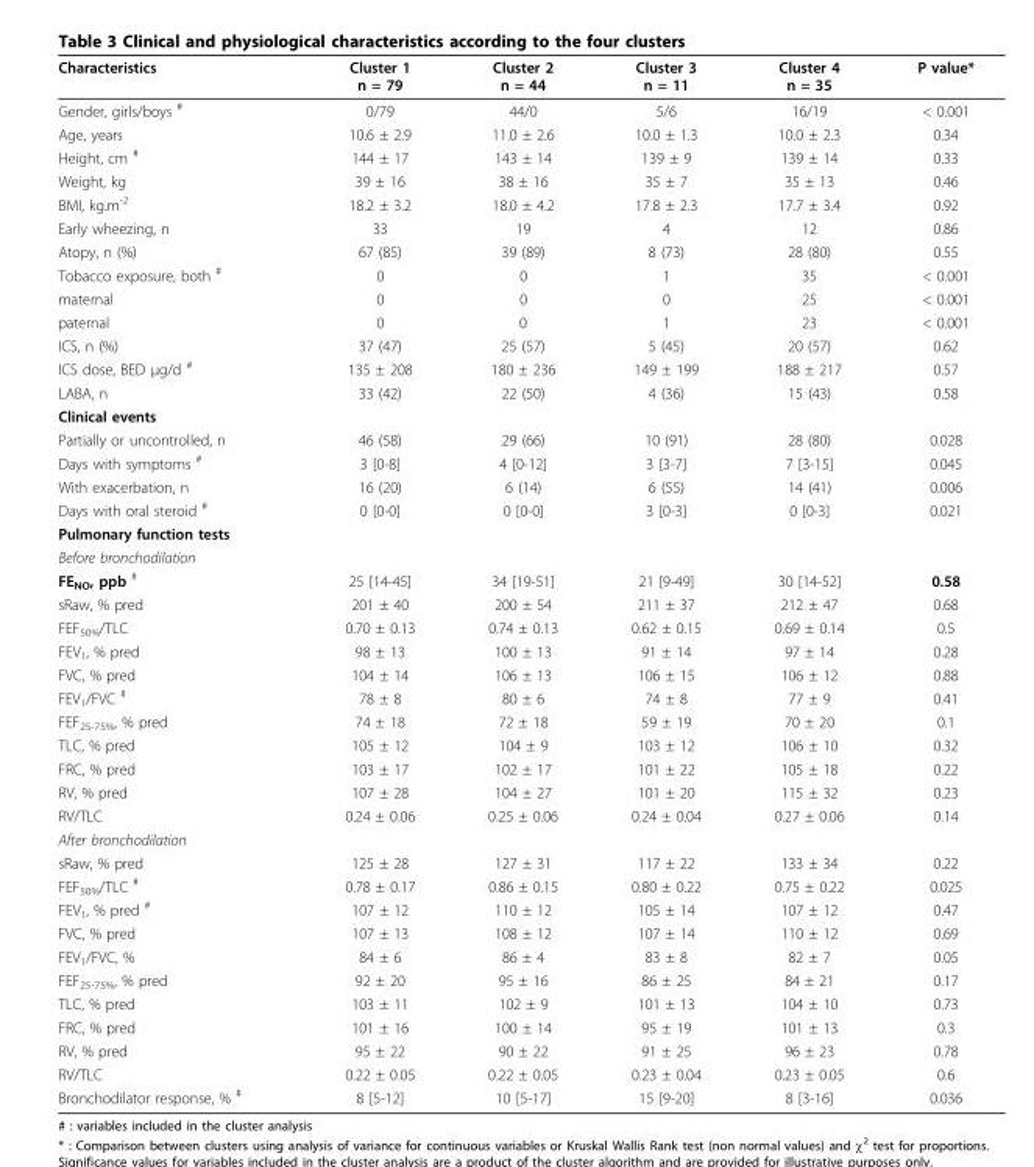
<table><thead><tr><td>Characteristics</td><td>Cluster 1 n = 79</td><td>Cluster 2 n = 44</td><td>Cluster 3 n = 11</td><td>Cluster 4 n = 35</td><td>P value*</td></tr></thead><tbody><tr><td>Gender, girls/boys <sup>#</sup></td><td>0/79</td><td>44/0</td><td>5/6</td><td>16/19</td><td>&lt; 0.001</td></tr><tr><td>Age, years</td><td>10.6 ± 2.9</td><td>11.0 ± 2.6</td><td>10.0 ± 1.3</td><td>10.0 ± 2.3</td><td>0.34</td></tr><tr><td>Height, cm <sup>#</sup></td><td>144 ± 17</td><td>143 ± 14</td><td>139 ± 9</td><td>139 ± 14</td><td>0.33</td></tr><tr><td>Weight, kg</td><td>39 ± 16</td><td>38 ± 16</td><td>35 ± 7</td><td>35 ± 13</td><td>0.46</td></tr><tr><td>BMI, kg.m<sup>-2</sup></td><td>18.2 ± 3.2</td><td>18.0 ± 4.2</td><td>17.8 ± 2.3</td><td>17.7 ± 3.4</td><td>0.92</td></tr><tr><td>Early wheezing, n</td><td>33</td><td>19</td><td>4</td><td>12</td><td>0.86</td></tr><tr><td>Atopy, n (%)</td><td>67 (85)</td><td>39 (89)</td><td>8 (73)</td><td>28 (80)</td><td>0.55</td></tr><tr><td>Tobacco exposure, both <sup>#</sup></td><td>0</td><td>0</td><td>1</td><td>35</td><td>&lt; 0.001</td></tr><tr><td>maternal</td><td>0</td><td>0</td><td>0</td><td>25</td><td>&lt; 0.001</td></tr><tr><td>paternal</td><td>0</td><td>0</td><td>1</td><td>23</td><td>&lt; 0.001</td></tr><tr><td>ICS, n (%)</td><td>37 (47)</td><td>25 (57)</td><td>5 (45)</td><td>20 (57)</td><td>0.62</td></tr><tr><td>ICS dose, BED μg/d <sup>#</sup></td><td>135 ± 208</td><td>180 ± 236</td><td>149 ± 199</td><td>188 ± 217</td><td>0.57</td></tr><tr><td>LABA, n</td><td>33 (42)</td><td>22 (50)</td><td>4 (36)</td><td>15 (43)</td><td>0.58</td></tr><tr><td colspan="6">Clinical events</td></tr><tr><td>Partially or uncontrolled, n</td><td>46 (58)</td><td>29 (66)</td><td>10 (91)</td><td>28 (80)</td><td>0.028</td></tr><tr><td>Days with symptoms <sup>#</sup></td><td>3 [0-8]</td><td>4 [0-12]</td><td>3 [3-7]</td><td>7 [3-15]</td><td>0.045</td></tr><tr><td>With exacerbation, n</td><td>16 (20)</td><td>6 (14)</td><td>6 (55)</td><td>14 (41)</td><td>0.006</td></tr><tr><td>Days with oral steroid <sup>#</sup></td><td>0 [0-0]</td><td>0 [0-0]</td><td>3 [0-3]</td><td>0 [0-3]</td><td>0.021</td></tr><tr><td colspan="6">Pulmonary function tests</td></tr><tr><td colspan="6">Before bronchodilation</td></tr><tr><td>FE<sub>NO</sub>, ppb <sup>#</sup></td><td>25 [14-45]</td><td>34 [19-51]</td><td>21 [9-49]</td><td>30 [14-52]</td><td>0.58</td></tr><tr><td>sRaw, % pred</td><td>201 ± 40</td><td>200 ± 54</td><td>211 ± 37</td><td>212 ± 47</td><td>0.68</td></tr><tr><td>FEF<sub>50%</sub>/TLC</td><td>0.70 ± 0.13</td><td>0.74 ± 0.13</td><td>0.62 ± 0.15</td><td>0.69 ± 0.14</td><td>0.5</td></tr><tr><td>FEV<sub>1</sub>, % pred</td><td>98 ± 13</td><td>100 ± 13</td><td>91 ± 14</td><td>97 ± 14</td><td>0.28</td></tr><tr><td>FVC, % pred</td><td>104 ± 14</td><td>106 ± 13</td><td>106 ± 15</td><td>106 ± 12</td><td>0.88</td></tr><tr><td>FEV<sub>1</sub>/FVC <sup>#</sup></td><td>78 ± 8</td><td>80 ± 6</td><td>74 ± 8</td><td>77 ± 9</td><td>0.41</td></tr><tr><td>FEF<sub>25-75%</sub>, % pred</td><td>74 ± 18</td><td>72 ± 18</td><td>59 ± 19</td><td>70 ± 20</td><td>0.1</td></tr><tr><td>TLC, % pred</td><td>105 ± 12</td><td>104 ± 9</td><td>103 ± 12</td><td>106 ± 10</td><td>0.32</td></tr><tr><td>FRC, % pred</td><td>103 ± 17</td><td>102 ± 17</td><td>101 ± 22</td><td>105 ± 18</td><td>0.22</td></tr><tr><td>RV, % pred</td><td>107 ± 28</td><td>104 ± 27</td><td>101 ± 20</td><td>115 ± 32</td><td>0.23</td></tr><tr><td>RV/TLC</td><td>0.24 ± 0.06</td><td>0.25 ± 0.06</td><td>0.24 ± 0.04</td><td>0.27 ± 0.06</td><td>0.14</td></tr><tr><td colspan="6">After bronchodilation</td></tr><tr><td>sRaw, % pred</td><td>125 ± 28</td><td>127 ± 31</td><td>117 ± 22</td><td>133 ± 34</td><td>0.22</td></tr><tr><td>FEF<sub>50%</sub>/TLC <sup>#</sup></td><td>0.78 ± 0.17</td><td>0.86 ± 0.15</td><td>0.80 ± 0.22</td><td>0.75 ± 0.22</td><td>0.025</td></tr><tr><td>FEV<sub>1</sub>, % pred <sup>#</sup></td><td>107 ± 12</td><td>110 ± 12</td><td>105 ± 14</td><td>107 ± 12</td><td>0.47</td></tr><tr><td>FVC, % pred</td><td>107 ± 13</td><td>108 ± 12</td><td>107 ± 14</td><td>110 ± 12</td><td>0.69</td></tr><tr><td>FEV<sub>1</sub>/FVC, %</td><td>84 ± 6</td><td>86 ± 4</td><td>83 ± 8</td><td>82 ± 7</td><td>0.05</td></tr><tr><td>FEF<sub>25-75%</sub>, % pred</td><td>92 ± 20</td><td>95 ± 16</td><td>86 ± 25</td><td>84 ± 21</td><td>0.17</td></tr><tr><td>TLC, % pred</td><td>103 ± 11</td><td>102 ± 9</td><td>101 ± 13</td><td>104 ± 10</td><td>0.73</td></tr><tr><td>FRC, % pred</td><td>101 ± 16</td><td>100 ± 14</td><td>95 ± 19</td><td>101 ± 13</td><td>0.3</td></tr><tr><td>RV, % pred</td><td>95 ± 22</td><td>90 ± 22</td><td>91 ± 25</td><td>96 ± 23</td><td>0.78</td></tr><tr><td>RV/TLC</td><td>0.22 ± 0.05</td><td>0.22 ± 0.05</td><td>0.23 ± 0.04</td><td>0.23 ± 0.05</td><td>0.6</td></tr><tr><td>Bronchodilator response, % <sup>#</sup></td><td>8 [5-12]</td><td>10 [5-17]</td><td>15 [9-20]</td><td>8 [3-16]</td><td>0.036</td></tr></tbody></table>